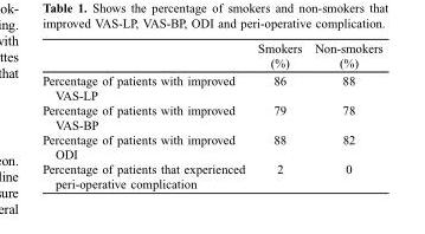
<table><thead><tr><td></td><td>Smokers (%)</td><td>Non-smokers (%)</td></tr></thead><tbody><tr><td>Percentage of patients with improved VAS-LP</td><td>86</td><td>88</td></tr><tr><td>Percentage of patients with improved VAS-BP</td><td>79</td><td>78</td></tr><tr><td>Percentage of patients with improved ODI</td><td>88</td><td>82</td></tr><tr><td>Percentage of patients that experienced peri-operative complication</td><td>2</td><td>0</td></tr></tbody></table>